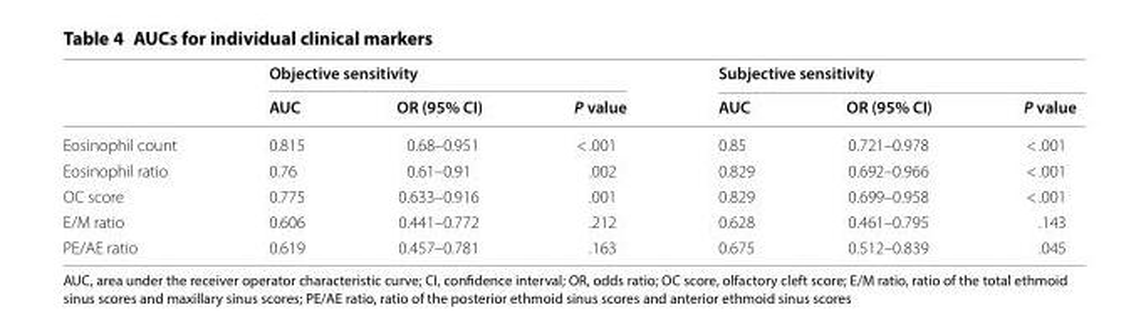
<table><thead><tr><td rowspan="2"></td><td colspan="3">Objective sensitivity</td><td colspan="3">Subjective sensitivity</td></tr><tr><td>AUC</td><td>OR (95% CI)</td><td>P value</td><td>AUC</td><td>OR (95% CI)</td><td>P value</td></tr></thead><tbody><tr><td>Eosinophil count</td><td>0.815</td><td>0.68–0.951</td><td>&lt; .001</td><td>0.85</td><td>0.721–0.978</td><td>&lt; .001</td></tr><tr><td>Eosinophil ratio</td><td>0.76</td><td>0.61–0.91</td><td>.002</td><td>0.829</td><td>0.692–0.966</td><td>&lt; .001</td></tr><tr><td>OC score</td><td>0.775</td><td>0.633–0.916</td><td>.001</td><td>0.829</td><td>0.699–0.958</td><td>&lt; .001</td></tr><tr><td>E/M ratio</td><td>0.606</td><td>0.441–0.772</td><td>.212</td><td>0.628</td><td>0.461–0.795</td><td>.143</td></tr><tr><td>PE/AE ratio</td><td>0.619</td><td>0.457–0.781</td><td>.163</td><td>0.675</td><td>0.512–0.839</td><td>.045</td></tr></tbody></table>